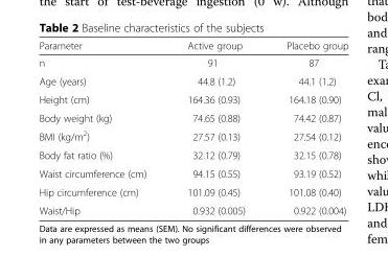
<table><thead><tr><td>Parameter</td><td>Active group</td><td>Placebo group</td></tr></thead><tbody><tr><td>n</td><td>91</td><td>87</td></tr><tr><td>Age (years)</td><td>44.8 (1.2)</td><td>44.1 (1.2)</td></tr><tr><td>Height (cm)</td><td>164.36 (0.93)</td><td>164.18 (0.90)</td></tr><tr><td>Body weight (kg)</td><td>74.65 (0.88)</td><td>74.42 (0.87)</td></tr><tr><td>BMI (kg/m<sup>2</sup>)</td><td>27.57 (0.13)</td><td>27.54 (0.12)</td></tr><tr><td>Body fat ratio (%)</td><td>32.12 (0.79)</td><td>32.15 (0.78)</td></tr><tr><td>Waist circumference (cm)</td><td>94.15 (0.55)</td><td>93.19 (0.52)</td></tr><tr><td>Hip circumference (cm)</td><td>101.09 (0.45)</td><td>101.08 (0.40)</td></tr><tr><td>Waist/Hip</td><td>0.932 (0.005)</td><td>0.922 (0.004)</td></tr></tbody></table>